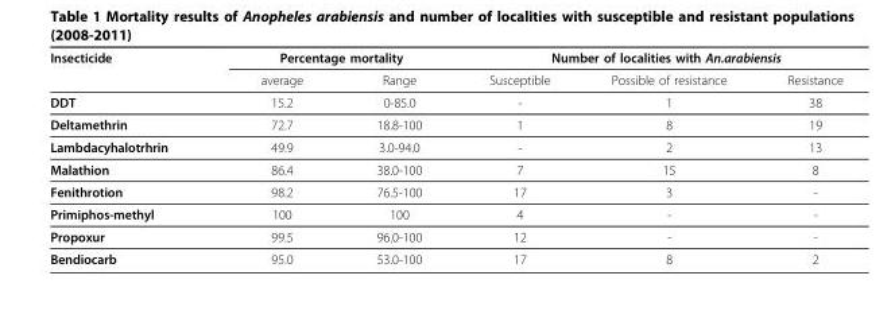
<table><thead><tr><td rowspan="2">Insecticide</td><td colspan="2">Percentage mortality</td><td colspan="3">Number of localities with An.arabiensis</td></tr><tr><td>average</td><td>Range</td><td>Susceptible</td><td>Possible of resistance</td><td>Resistance</td></tr></thead><tbody><tr><td>DDT</td><td>15.2</td><td>0-85.0</td><td>-</td><td>1</td><td>38</td></tr><tr><td>Deltamethrin</td><td>72.7</td><td>18.8-100</td><td>1</td><td>8</td><td>19</td></tr><tr><td>Lambdacyhalotrhrin</td><td>49.9</td><td>3.0-94.0</td><td>-</td><td>2</td><td>13</td></tr><tr><td>Malathion</td><td>86.4</td><td>38.0-100</td><td>7</td><td>15</td><td>8</td></tr><tr><td>Fenithrotion</td><td>98.2</td><td>76.5-100</td><td>17</td><td>3</td><td>-</td></tr><tr><td>Primiphos-methyl</td><td>100</td><td>100</td><td>4</td><td>-</td><td>-</td></tr><tr><td>Propoxur</td><td>99.5</td><td>96.0-100</td><td>12</td><td>-</td><td>-</td></tr><tr><td>Bendiocarb</td><td>95.0</td><td>53.0-100</td><td>17</td><td>8</td><td>2</td></tr></tbody></table>